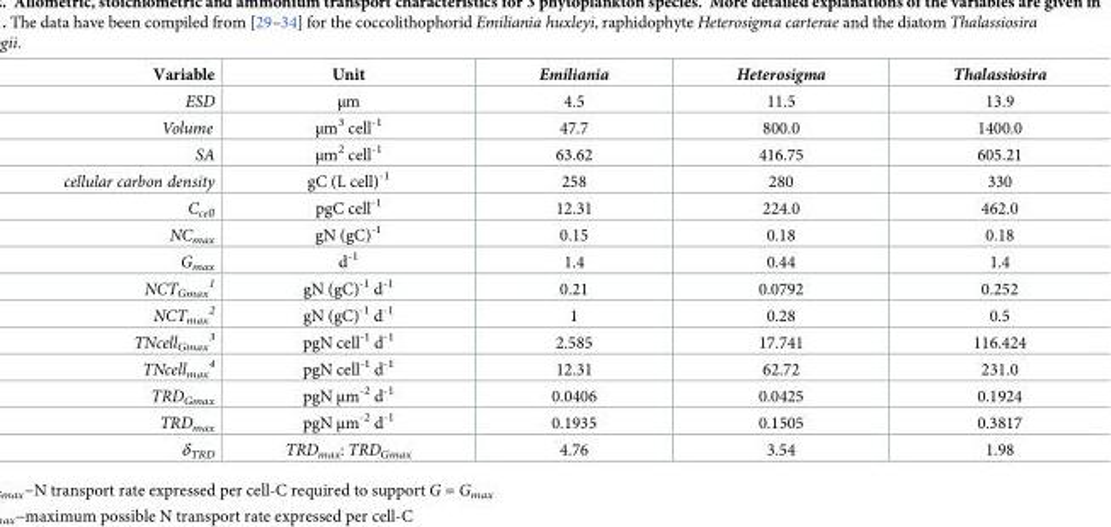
<table><thead><tr><td>Variable</td><td>Unit</td><td>Emiliania</td><td>Heterosigma</td><td>Thalassiosira</td></tr></thead><tbody><tr><td>ESD</td><td>μm</td><td>4.5</td><td>11.5</td><td>13.9</td></tr><tr><td>Volume</td><td>μm<sup>3</sup> cell<sup>-1</sup></td><td>47.7</td><td>800.0</td><td>1400.0</td></tr><tr><td>SA</td><td>μm<sup>2</sup> cell<sup>-1</sup></td><td>63.62</td><td>416.75</td><td>605.21</td></tr><tr><td>cellular carbon density</td><td>gC (L cell)<sup>-1</sup></td><td>258</td><td>280</td><td>330</td></tr><tr><td>C<sub>cell</sub></td><td>pgC cell<sup>-1</sup></td><td>12.31</td><td>224.0</td><td>462.0</td></tr><tr><td>NC<sub>max</sub></td><td>gN (gC)<sup>-1</sup></td><td>0.15</td><td>0.18</td><td>0.18</td></tr><tr><td>G<sub>max</sub></td><td>d<sup>-1</sup></td><td>1.4</td><td>0.44</td><td>1.4</td></tr><tr><td>NCT<sub>Gmax</sub> <sup>1</sup></td><td>gN (gC)<sup>-1</sup> d<sup>-1</sup></td><td>0.21</td><td>0.0792</td><td>0.252</td></tr><tr><td>NCT<sub>max</sub> <sup>2</sup></td><td>gN (gC)<sup>-1</sup> d<sup>-1</sup></td><td>1</td><td>0.28</td><td>0.5</td></tr><tr><td>TNcell<sub>Gmax</sub> <sup>3</sup></td><td>pgN cell<sup>-1</sup> d<sup>-1</sup></td><td>2.585</td><td>17.741</td><td>116.424</td></tr><tr><td>TNcell<sub>max</sub> <sup>4</sup></td><td>pgN cell<sup>-1</sup> d<sup>-1</sup></td><td>12.31</td><td>62.72</td><td>231.0</td></tr><tr><td>TRD<sub>Gmax</sub></td><td>pgN μm<sup>-2</sup> d<sup>-1</sup></td><td>0.0406</td><td>0.0425</td><td>0.1924</td></tr><tr><td>TRD<sub>max</sub></td><td>pgN μm<sup>-2</sup> d<sup>-1</sup></td><td>0.1935</td><td>0.1505</td><td>0.3817</td></tr><tr><td>δ<sub>TRD</sub></td><td>TRD<sub>max</sub>: TRD<sub>Gmax</sub></td><td>4.76</td><td>3.54</td><td>1.98</td></tr></tbody></table>